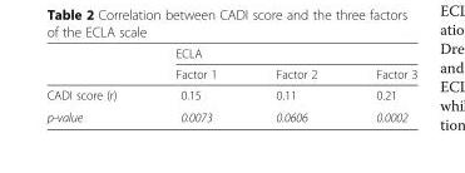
<table><thead><tr><td rowspan="2"></td><td colspan="3">ECLA</td></tr><tr><td>Factor 1</td><td>Factor 2</td><td>Factor 3</td></tr></thead><tbody><tr><td>CADI score (r)</td><td>0.15</td><td>0.11</td><td>0.21</td></tr><tr><td>p-value</td><td>0.0073</td><td>0.0606</td><td>0.0002</td></tr></tbody></table>